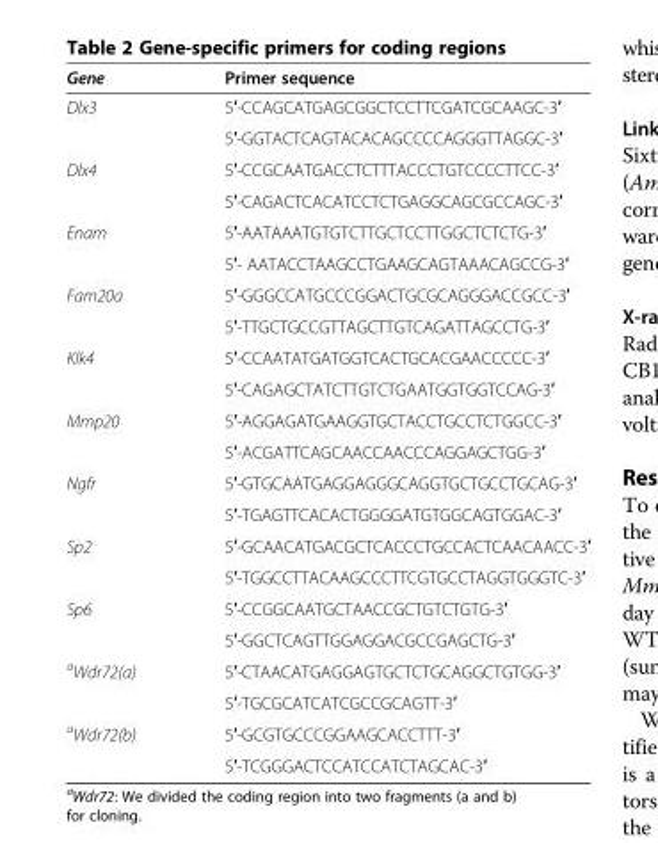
<table><thead><tr><td>Gene</td><td>Primer sequence</td></tr></thead><tbody><tr><td rowspan="2">Dlx3</td><td>5′-CCAGCATGAGCGGCTCCTTCGATCGCAAGC-3′</td></tr><tr><td>5′-GGTACTCAGTACACAGCCCCAGGGTTAGGC-3′</td></tr><tr><td rowspan="2">Dlx4</td><td>5′-CCGCAATGACCTCTTTACCCTGTCCCCTTCC-3′</td></tr><tr><td>5′-CAGACTCACATCCTCTGAGGCAGCGCCAGC-3′</td></tr><tr><td rowspan="2">Enam</td><td>5′-AATAAATGTGTCTTGCTCCTTGGCTCTCTG-3′</td></tr><tr><td>5′- AATACCTAAGCCTGAAGCAGTAAACAGCCG-3′</td></tr><tr><td rowspan="2">Fam20a</td><td>5′-GGGCCATGCCCGGACTGCGCAGGGACCGCC-3′</td></tr><tr><td>5′-TTGCTGCCGTTAGCTTGTCAGATTAGCCTG-3′</td></tr><tr><td rowspan="2">Klk4</td><td>5′-CCAATATGATGGTCACTGCACGAACCCCC-3′</td></tr><tr><td>5′-CAGAGCTATCTTGTCTGAATGGTGGTCCAG-3′</td></tr><tr><td rowspan="2">Mmp20</td><td>5′-AGGAGATGAAGGTGCTACCTGCCTCTGGCC-3′</td></tr><tr><td>5′-ACGATTCAGCAACCAACCCAGGAGCTGG-3′</td></tr><tr><td rowspan="2">Ngfr</td><td>5′-GTGCAATGAGGAGGGCAGGTGCTGCCTGCAG-3′</td></tr><tr><td>5′-TGAGTTCACACTGGGGATGTGGCAGTGGAC-3′</td></tr><tr><td rowspan="2">Sp2</td><td>5′-GCAACATGACGCTCACCCTGCCACTCAACAACC-3′</td></tr><tr><td>5′-TGGCCTTACAAGCCCTTCGTGCCTAGGTGGGTC-3′</td></tr><tr><td rowspan="2">Sp6</td><td>5′-CCGGCAATGCTAACCGCTGTCTGTG-3′</td></tr><tr><td>5′-GGCTCAGTTGGAGGACGCCGAGCTG-3′</td></tr><tr><td rowspan="2"><sup>a</sup>Wdr72(a)</td><td>5′-CTAACATGAGGAGTGCTCTGCAGGCTGTGG-3′</td></tr><tr><td>5′-TGCGCATCATCGCCGCAGTT-3′</td></tr><tr><td rowspan="2"><sup>a</sup>Wdr72(b)</td><td>5′-GCGTGCCCGGAAGCACCTTT-3′</td></tr><tr><td>5′-TCGGGACTCCATCCATCTAGCAC-3′</td></tr></tbody></table>